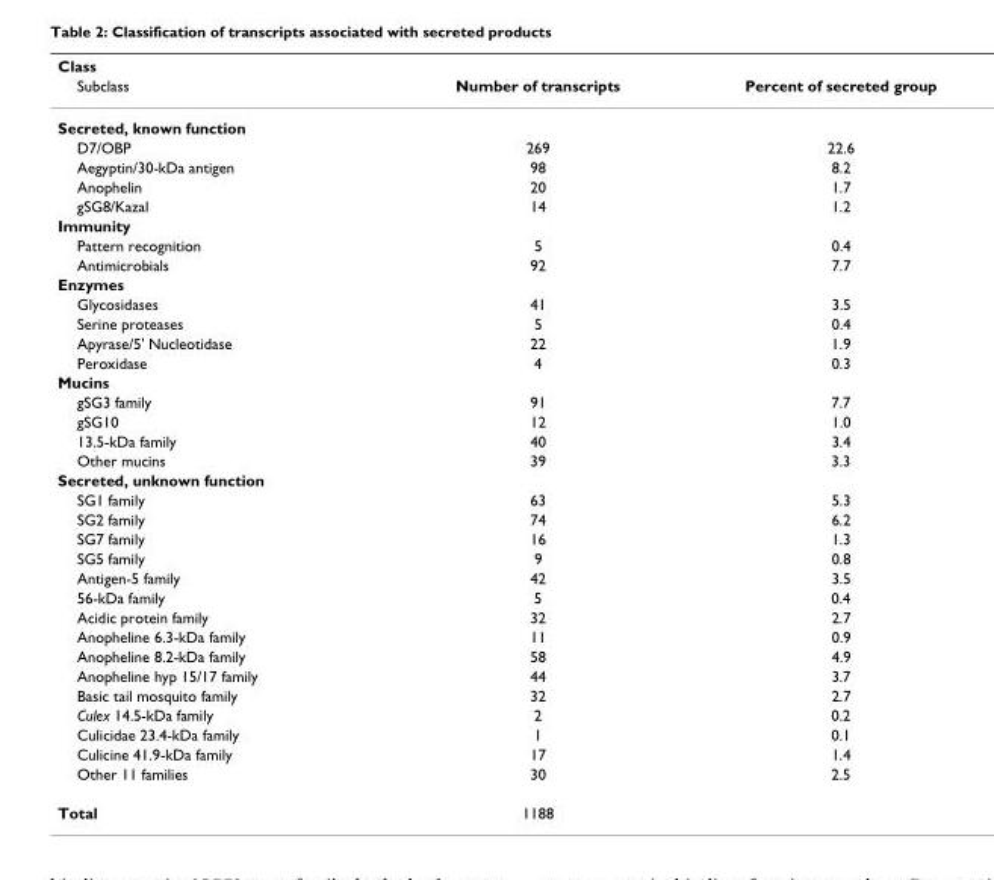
<table><thead><tr><td rowspan="2">Class Subclass</td><td rowspan="2">Number of transcripts</td><td rowspan="2">Percent of secreted group</td></tr><tr></tr></thead><tbody><tr><td colspan="3">Secreted, known function</td></tr><tr><td>D7/OBP</td><td>269</td><td>22.6</td></tr><tr><td>Aegyptin/30-kDa antigen</td><td>98</td><td>8.2</td></tr><tr><td>Anophelin</td><td>20</td><td>1.7</td></tr><tr><td>gSG8/Kazal</td><td>14</td><td>1.2</td></tr><tr><td colspan="3">Immunity</td></tr><tr><td>Pattern recognition</td><td>5</td><td>0.4</td></tr><tr><td>Antimicrobials</td><td>92</td><td>7.7</td></tr><tr><td colspan="3">Enzymes</td></tr><tr><td>Glycosidases</td><td>41</td><td>3.5</td></tr><tr><td>Serine proteases</td><td>5</td><td>0.4</td></tr><tr><td>Apyrase/5&#x27; Nucleotidase</td><td>22</td><td>1.9</td></tr><tr><td>Peroxidase</td><td>4</td><td>0.3</td></tr><tr><td colspan="3">Mucins</td></tr><tr><td>gSG3 family</td><td>91</td><td>7.7</td></tr><tr><td>gSG10</td><td>12</td><td>1.0</td></tr><tr><td>13.5-kDa family</td><td>40</td><td>3.4</td></tr><tr><td>Other mucins</td><td>39</td><td>3.3</td></tr><tr><td colspan="3">Secreted, unknown function</td></tr><tr><td>SG1 family</td><td>63</td><td>5.3</td></tr><tr><td>SG2 family</td><td>74</td><td>6.2</td></tr><tr><td>SG7 family</td><td>16</td><td>1.3</td></tr><tr><td>SG5 family</td><td>9</td><td>0.8</td></tr><tr><td>Antigen-5 family</td><td>42</td><td>3.5</td></tr><tr><td>56-kDa family</td><td>5</td><td>0.4</td></tr><tr><td>Acidic protein family</td><td>32</td><td>2.7</td></tr><tr><td>Anopheline 6.3-kDa family</td><td>11</td><td>0.9</td></tr><tr><td>Anopheline 8.2-kDa family</td><td>58</td><td>4.9</td></tr><tr><td>Anopheline hyp 15/17 family</td><td>44</td><td>3.7</td></tr><tr><td>Basic tail mosquito family</td><td>32</td><td>2.7</td></tr><tr><td>Culex 14.5-kDa family</td><td>2</td><td>0.2</td></tr><tr><td>Culicidae 23.4-kDa family</td><td>1</td><td>0.1</td></tr><tr><td>Culicine 41.9-kDa family</td><td>17</td><td>1.4</td></tr><tr><td>Other 11 families</td><td>30</td><td>2.5</td></tr><tr><td>Total</td><td>1188</td><td></td></tr></tbody></table>